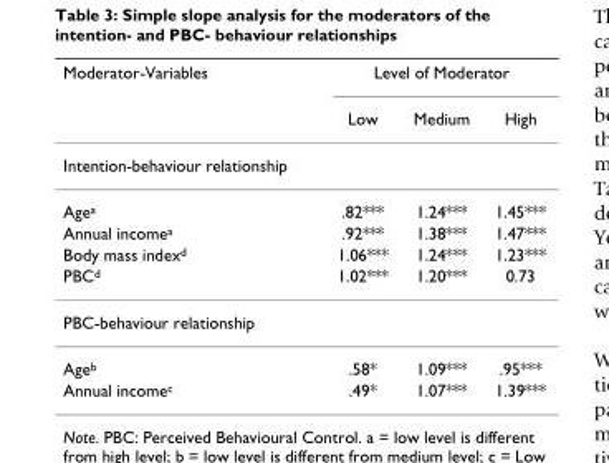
<table><thead><tr><td rowspan="2">Moderator-Variables</td><td colspan="3">Level of Moderator</td></tr><tr><td>Low</td><td>Medium</td><td>High</td></tr></thead><tbody><tr><td colspan="4">Intention-behaviour relationship</td></tr><tr><td>Age<sup>a</sup></td><td>.82***</td><td>1.24***</td><td>1.45***</td></tr><tr><td>Annual income<sup>a</sup></td><td>.92***</td><td>1.38***</td><td>1.47***</td></tr><tr><td>Body mass index<sup>d</sup></td><td>1.06***</td><td>1.24***</td><td>1.23***</td></tr><tr><td>PBC<sup>d</sup></td><td>1.02***</td><td>1.20***</td><td>0.73</td></tr><tr><td colspan="4">PBC-behaviour relationship</td></tr><tr><td>Age<sup>b</sup></td><td>.58*</td><td>1.09***</td><td>.95***</td></tr><tr><td>Annual income<sup>c</sup></td><td>.49*</td><td>1.07***</td><td>1.39***</td></tr></tbody></table>